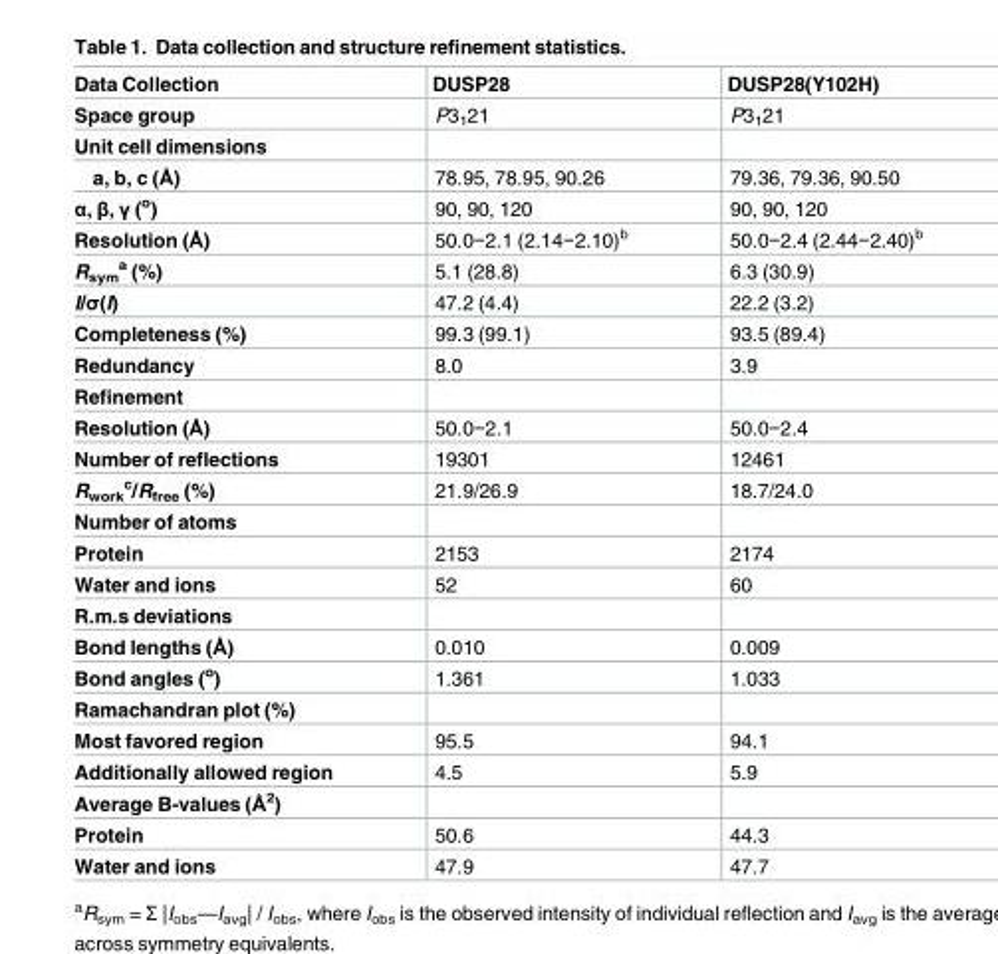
<table><thead><tr><td>Data Collection</td><td>DUSP28</td><td>DUSP28(Y102H)</td></tr></thead><tbody><tr><td>Space group</td><td>P3<sub>1</sub>21</td><td>P3<sub>1</sub>21</td></tr><tr><td colspan="3">Unit cell dimensions</td></tr><tr><td>a, b, c (Å)</td><td>78.95, 78.95, 90.26</td><td>79.36, 79.36, 90.50</td></tr><tr><td>α, β, γ (<sup>o</sup>)</td><td>90, 90, 120</td><td>90, 90, 120</td></tr><tr><td>Resolution (Å)</td><td>50.0−2.1 (2.14−2.10)<sup>b</sup></td><td>50.0−2.4 (2.44−2.40)<sup>b</sup></td></tr><tr><td>R<sub>sym</sub> <sup>a</sup> (%)</td><td>5.1 (28.8)</td><td>6.3 (30.9)</td></tr><tr><td>I/σ(I)</td><td>47.2 (4.4)</td><td>22.2 (3.2)</td></tr><tr><td>Completeness (%)</td><td>99.3 (99.1)</td><td>93.5 (89.4)</td></tr><tr><td>Redundancy</td><td>8.0</td><td>3.9</td></tr><tr><td colspan="3">Refinement</td></tr><tr><td>Resolution (Å)</td><td>50.0−2.1</td><td>50.0−2.4</td></tr><tr><td>Number of reflections</td><td>19301</td><td>12461</td></tr><tr><td>R<sub>work</sub> <sup>c</sup>/R<sub>free</sub> (%)</td><td>21.9/26.9</td><td>18.7/24.0</td></tr><tr><td colspan="3">Number of atoms</td></tr><tr><td>Protein</td><td>2153</td><td>2174</td></tr><tr><td>Water and ions</td><td>52</td><td>60</td></tr><tr><td colspan="3">R.m.s deviations</td></tr><tr><td>Bond lengths (Å)</td><td>0.010</td><td>0.009</td></tr><tr><td>Bond angles (<sup>o</sup>)</td><td>1.361</td><td>1.033</td></tr><tr><td colspan="3">Ramachandran plot (%)</td></tr><tr><td>Most favored region</td><td>95.5</td><td>94.1</td></tr><tr><td>Additionally allowed region</td><td>4.5</td><td>5.9</td></tr><tr><td colspan="3">Average B-values (Å<sup>2</sup>)</td></tr><tr><td>Protein</td><td>50.6</td><td>44.3</td></tr><tr><td>Water and ions</td><td>47.9</td><td>47.7</td></tr></tbody></table>